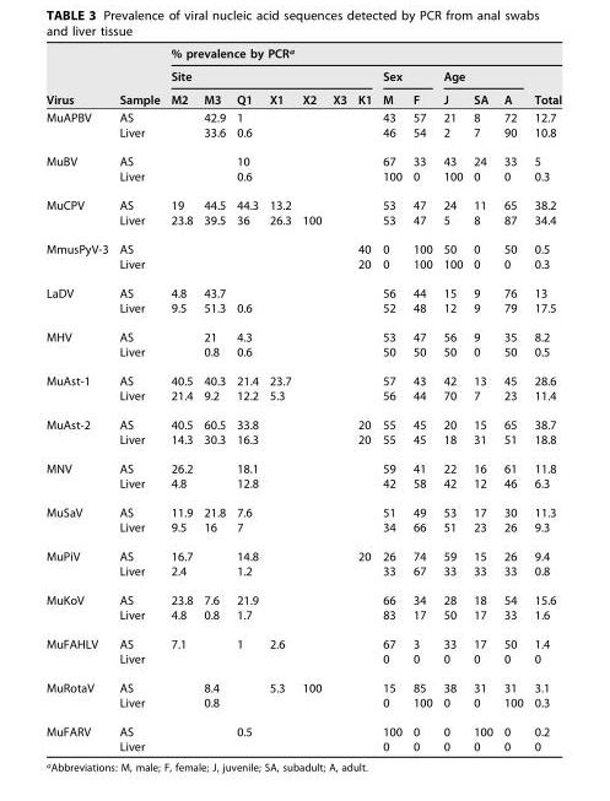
<table><thead><tr><td rowspan="3">Virus</td><td rowspan="3">Sample</td><td colspan="13">% prevalence by PCR<sup>a</sup></td></tr><tr><td colspan="7">Site</td><td colspan="2">Sex</td><td colspan="3">Age</td><td rowspan="2">Total</td></tr><tr><td>M2</td><td>M3</td><td>Q1</td><td>X1</td><td>X2</td><td>X3</td><td>K1</td><td>M</td><td>F</td><td>J</td><td>SA</td><td>A</td></tr></thead><tbody><tr><td rowspan="2">MuAPBV</td><td>AS</td><td></td><td>42.9</td><td>1</td><td></td><td></td><td></td><td></td><td>43</td><td>57</td><td>21</td><td>8</td><td>72</td><td>12.7</td></tr><tr><td>Liver</td><td></td><td>33.6</td><td>0.6</td><td></td><td></td><td></td><td></td><td>46</td><td>54</td><td>2</td><td>7</td><td>90</td><td>10.8</td></tr><tr><td rowspan="2">MuBV</td><td>AS</td><td></td><td></td><td>10</td><td></td><td></td><td></td><td></td><td>67</td><td>33</td><td>43</td><td>24</td><td>33</td><td>5</td></tr><tr><td>Liver</td><td></td><td></td><td>0.6</td><td></td><td></td><td></td><td></td><td>100</td><td>0</td><td>100</td><td>0</td><td>0</td><td>0.3</td></tr><tr><td rowspan="2">MuCPV</td><td>AS</td><td>19</td><td>44.5</td><td>44.3</td><td>13.2</td><td></td><td></td><td></td><td>53</td><td>47</td><td>24</td><td>11</td><td>65</td><td>38.2</td></tr><tr><td>Liver</td><td>23.8</td><td>39.5</td><td>36</td><td>26.3</td><td>100</td><td></td><td></td><td>53</td><td>47</td><td>5</td><td>8</td><td>87</td><td>34.4</td></tr><tr><td rowspan="2">MmusPyV-3</td><td>AS</td><td></td><td></td><td></td><td></td><td></td><td></td><td>40</td><td>0</td><td>100</td><td>50</td><td>0</td><td>50</td><td>0.5</td></tr><tr><td>Liver</td><td></td><td></td><td></td><td></td><td></td><td></td><td>20</td><td>0</td><td>100</td><td>100</td><td>0</td><td>0</td><td>0.3</td></tr><tr><td rowspan="2">LaDV</td><td>AS</td><td>4.8</td><td>43.7</td><td></td><td></td><td></td><td></td><td></td><td>56</td><td>44</td><td>15</td><td>9</td><td>76</td><td>13</td></tr><tr><td>Liver</td><td>9.5</td><td>51.3</td><td>0.6</td><td></td><td></td><td></td><td></td><td>52</td><td>48</td><td>12</td><td>9</td><td>79</td><td>17.5</td></tr><tr><td rowspan="2">MHV</td><td>AS</td><td></td><td>21</td><td>4.3</td><td></td><td></td><td></td><td></td><td>53</td><td>47</td><td>56</td><td>9</td><td>35</td><td>8.2</td></tr><tr><td>Liver</td><td></td><td>0.8</td><td>0.6</td><td></td><td></td><td></td><td></td><td>50</td><td>50</td><td>50</td><td>0</td><td>50</td><td>0.5</td></tr><tr><td rowspan="2">MuAst-1</td><td>AS</td><td>40.5</td><td>40.3</td><td>21.4</td><td>23.7</td><td></td><td></td><td></td><td>57</td><td>43</td><td>42</td><td>13</td><td>45</td><td>28.6</td></tr><tr><td>Liver</td><td>21.4</td><td>9.2</td><td>12.2</td><td>5.3</td><td></td><td></td><td></td><td>56</td><td>44</td><td>70</td><td>7</td><td>23</td><td>11.4</td></tr><tr><td rowspan="2">MuAst-2</td><td>AS</td><td>40.5</td><td>60.5</td><td>33.8</td><td></td><td></td><td></td><td>20</td><td>55</td><td>45</td><td>20</td><td>15</td><td>65</td><td>38.7</td></tr><tr><td>Liver</td><td>14.3</td><td>30.3</td><td>16.3</td><td></td><td></td><td></td><td>20</td><td>55</td><td>45</td><td>18</td><td>31</td><td>51</td><td>18.8</td></tr><tr><td rowspan="2">MNV</td><td>AS</td><td>26.2</td><td></td><td>18.1</td><td></td><td></td><td></td><td></td><td>59</td><td>41</td><td>22</td><td>16</td><td>61</td><td>11.8</td></tr><tr><td>Liver</td><td>4.8</td><td></td><td>12.8</td><td></td><td></td><td></td><td></td><td>42</td><td>58</td><td>42</td><td>12</td><td>46</td><td>6.3</td></tr><tr><td rowspan="2">MuSaV</td><td>AS</td><td>11.9</td><td>21.8</td><td>7.6</td><td></td><td></td><td></td><td></td><td>51</td><td>49</td><td>53</td><td>17</td><td>30</td><td>11.3</td></tr><tr><td>Liver</td><td>9.5</td><td>16</td><td>7</td><td></td><td></td><td></td><td></td><td>34</td><td>66</td><td>51</td><td>23</td><td>26</td><td>9.3</td></tr><tr><td rowspan="2">MuPiV</td><td>AS</td><td>16.7</td><td></td><td>14.8</td><td></td><td></td><td></td><td>20</td><td>26</td><td>74</td><td>59</td><td>15</td><td>26</td><td>9.4</td></tr><tr><td>Liver</td><td>2.4</td><td></td><td>1.2</td><td></td><td></td><td></td><td></td><td>33</td><td>67</td><td>33</td><td>33</td><td>33</td><td>0.8</td></tr><tr><td rowspan="2">MuKoV</td><td>AS</td><td>23.8</td><td>7.6</td><td>21.9</td><td></td><td></td><td></td><td></td><td>66</td><td>34</td><td>28</td><td>18</td><td>54</td><td>15.6</td></tr><tr><td>Liver</td><td>4.8</td><td>0.8</td><td>1.7</td><td></td><td></td><td></td><td></td><td>83</td><td>17</td><td>50</td><td>17</td><td>33</td><td>1.6</td></tr><tr><td rowspan="2">MuFAHLV</td><td>AS</td><td>7.1</td><td></td><td>1</td><td>2.6</td><td></td><td></td><td></td><td>67</td><td>3</td><td>33</td><td>17</td><td>50</td><td>1.4</td></tr><tr><td>Liver</td><td></td><td></td><td></td><td></td><td></td><td></td><td></td><td>0</td><td>0</td><td>0</td><td>0</td><td>0</td><td>0</td></tr><tr><td rowspan="2">MuRotaV</td><td>AS</td><td></td><td>8.4</td><td></td><td>5.3</td><td>100</td><td></td><td></td><td>15</td><td>85</td><td>38</td><td>31</td><td>31</td><td>3.1</td></tr><tr><td>Liver</td><td></td><td>0.8</td><td></td><td></td><td></td><td></td><td></td><td>0</td><td>100</td><td>0</td><td>0</td><td>100</td><td>0.3</td></tr><tr><td rowspan="2">MuFARV</td><td>AS</td><td></td><td></td><td>0.5</td><td></td><td></td><td></td><td></td><td>100</td><td>0</td><td>0</td><td>100</td><td>0</td><td>0.2</td></tr><tr><td>Liver</td><td></td><td></td><td></td><td></td><td></td><td></td><td></td><td>0</td><td>0</td><td>0</td><td>0</td><td>0</td><td>0</td></tr></tbody></table>